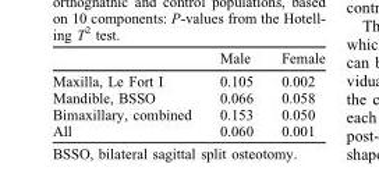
<table><thead><tr><td></td><td>Male</td><td>Female</td></tr></thead><tbody><tr><td>Maxilla, Le Fort I</td><td>0.105</td><td>0.002</td></tr><tr><td>Mandible, BSSO</td><td>0.066</td><td>0.058</td></tr><tr><td>Bimaxillary, combined</td><td>0.153</td><td>0.050</td></tr><tr><td>All</td><td>0.060</td><td>0.001</td></tr></tbody></table>